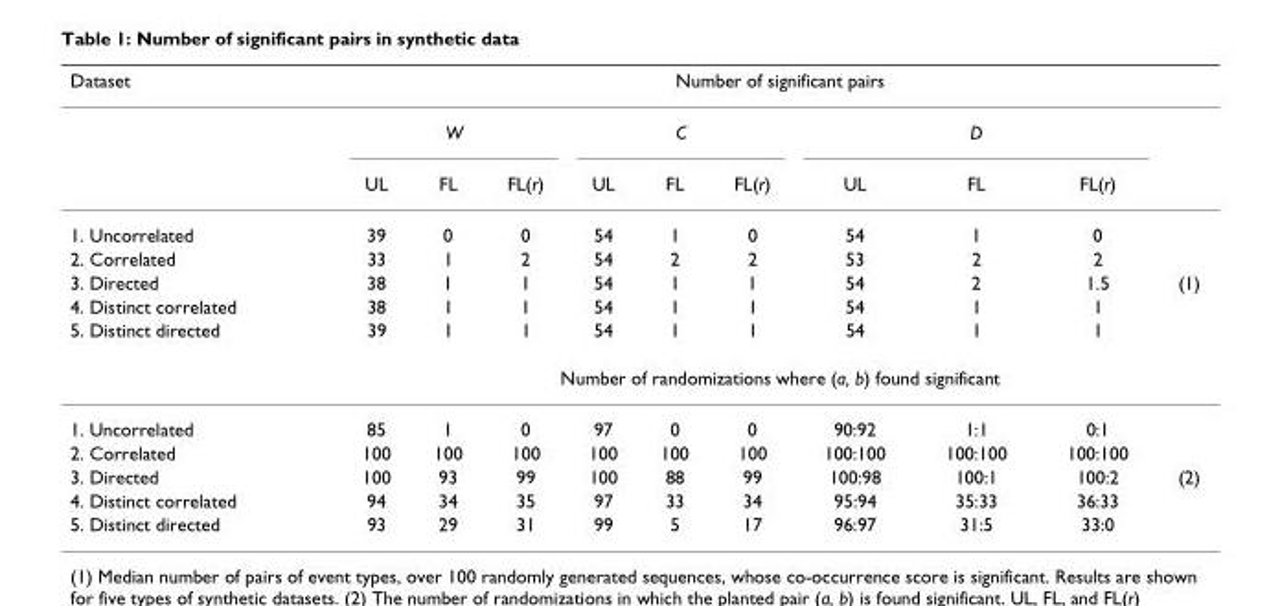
<table><thead><tr><td rowspan="3">Dataset</td><td colspan="10">Number of significant pairs</td></tr><tr><td colspan="3">W</td><td colspan="3">C</td><td colspan="3">D</td><td rowspan="2"></td></tr><tr><td>UL</td><td>FL</td><td>FL(r)</td><td>UL</td><td>FL</td><td>FL(r)</td><td>UL</td><td>FL</td><td>FL(r)</td></tr></thead><tbody><tr><td>1. Uncorrelated</td><td>39</td><td>0</td><td>0</td><td>54</td><td>1</td><td>0</td><td>54</td><td>1</td><td>0</td><td></td></tr><tr><td>2. Correlated</td><td>33</td><td>1</td><td>2</td><td>54</td><td>2</td><td>2</td><td>53</td><td>2</td><td>2</td><td></td></tr><tr><td>3. Directed</td><td>38</td><td>1</td><td>1</td><td>54</td><td>1</td><td>1</td><td>54</td><td>2</td><td>1.5</td><td>(1)</td></tr><tr><td>4. Distinct correlated</td><td>38</td><td>1</td><td>1</td><td>54</td><td>1</td><td>1</td><td>54</td><td>1</td><td>1</td><td></td></tr><tr><td rowspan="2">5. Distinct directed</td><td>39</td><td>1</td><td>1</td><td>54</td><td>1</td><td>1</td><td>54</td><td>1</td><td>1</td><td></td></tr><tr><td colspan="10">Number of randomizations where (a, b) found significant</td></tr><tr><td>1. Uncorrelated</td><td>85</td><td>1</td><td>0</td><td>97</td><td>0</td><td>0</td><td>90:92</td><td>1:1</td><td>0:1</td><td></td></tr><tr><td>2. Correlated</td><td>100</td><td>100</td><td>100</td><td>100</td><td>100</td><td>100</td><td>100:100</td><td>100:100</td><td>100:100</td><td></td></tr><tr><td>3. Directed</td><td>100</td><td>93</td><td>99</td><td>100</td><td>88</td><td>99</td><td>100:98</td><td>100:1</td><td>100:2</td><td>(2)</td></tr><tr><td>4. Distinct correlated</td><td>94</td><td>34</td><td>35</td><td>97</td><td>33</td><td>34</td><td>95:94</td><td>35:33</td><td>36:33</td><td></td></tr><tr><td>5. Distinct directed</td><td>93</td><td>29</td><td>31</td><td>99</td><td>5</td><td>17</td><td>96:97</td><td>31:5</td><td>33:0</td><td></td></tr></tbody></table>